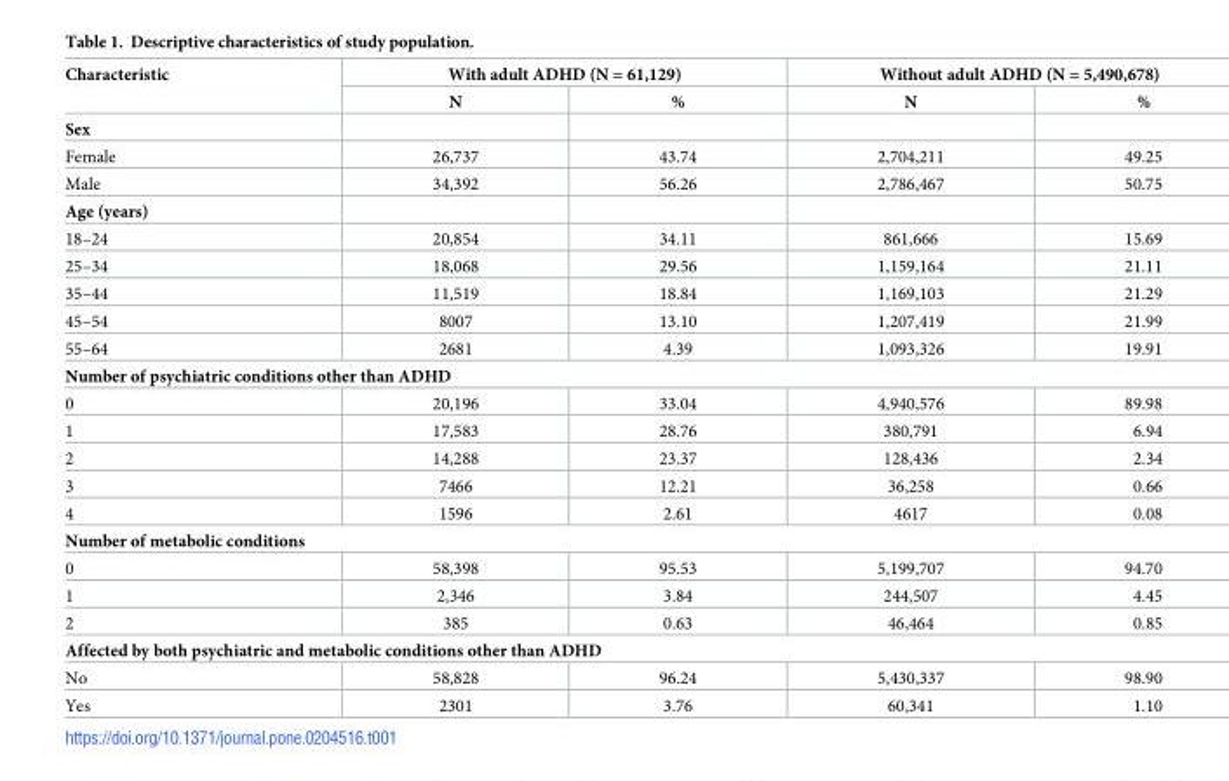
<table><thead><tr><td rowspan="2">Characteristic</td><td colspan="2">With adult ADHD (N = 61,129)</td><td colspan="2">Without adult ADHD (N = 5,490,678)</td></tr><tr><td>N</td><td>%</td><td>N</td><td>%</td></tr></thead><tbody><tr><td colspan="5">Sex</td></tr><tr><td>Female</td><td>26,737</td><td>43.74</td><td>2,704,211</td><td>49.25</td></tr><tr><td>Male</td><td>34,392</td><td>56.26</td><td>2,786,467</td><td>50.75</td></tr><tr><td colspan="5">Age (years)</td></tr><tr><td>18–24</td><td>20,854</td><td>34.11</td><td>861,666</td><td>15.69</td></tr><tr><td>25–34</td><td>18,068</td><td>29.56</td><td>1,159,164</td><td>21.11</td></tr><tr><td>35–44</td><td>11,519</td><td>18.84</td><td>1,169,103</td><td>21.29</td></tr><tr><td>45–54</td><td>8007</td><td>13.10</td><td>1,207,419</td><td>21.99</td></tr><tr><td>55–64</td><td>2681</td><td>4.39</td><td>1,093,326</td><td>19.91</td></tr><tr><td colspan="5">Number of psychiatric conditions other than ADHD</td></tr><tr><td>0</td><td>20,196</td><td>33.04</td><td>4,940,576</td><td>89.98</td></tr><tr><td>1</td><td>17,583</td><td>28.76</td><td>380,791</td><td>6.94</td></tr><tr><td>2</td><td>14,288</td><td>23.37</td><td>128,436</td><td>2.34</td></tr><tr><td>3</td><td>7466</td><td>12.21</td><td>36,258</td><td>0.66</td></tr><tr><td>4</td><td>1596</td><td>2.61</td><td>4617</td><td>0.08</td></tr><tr><td colspan="5">Number of metabolic conditions</td></tr><tr><td>0</td><td>58,398</td><td>95.53</td><td>5,199,707</td><td>94.70</td></tr><tr><td>1</td><td>2,346</td><td>3.84</td><td>244,507</td><td>4.45</td></tr><tr><td>2</td><td>385</td><td>0.63</td><td>46,464</td><td>0.85</td></tr><tr><td colspan="5">Affected by both psychiatric and metabolic conditions other than ADHD</td></tr><tr><td>No</td><td>58,828</td><td>96.24</td><td>5,430,337</td><td>98.90</td></tr><tr><td>Yes</td><td>2301</td><td>3.76</td><td>60,341</td><td>1.10</td></tr></tbody></table>